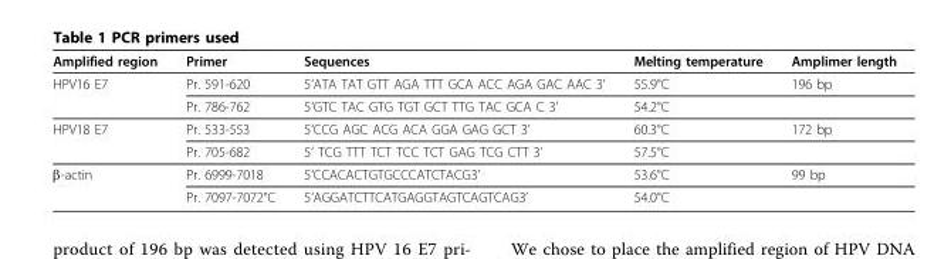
<table><thead><tr><td>Amplified region</td><td>Primer</td><td>Sequences</td><td>Melting temperature</td><td>Amplimer length</td></tr></thead><tbody><tr><td rowspan="2">HPV16 E7</td><td>Pr. 591-620</td><td>5’ATA TAT GTT AGA TTT GCA ACC AGA GAC AAC 3’</td><td>55.9°C</td><td>196 bp</td></tr><tr><td>Pr. 786-762</td><td>5’GTC TAC GTG TGT GCT TTG TAC GCA C 3’</td><td>54.2°C</td><td></td></tr><tr><td rowspan="2">HPV18 E7</td><td>Pr. 533-553</td><td>5’CCG AGC ACG ACA GGA GAG GCT 3’</td><td>60.3°C</td><td>172 bp</td></tr><tr><td>Pr. 705-682</td><td>5’ TCG TTT TCT TCC TCT GAG TCG CTT 3’</td><td>57.5°C</td><td></td></tr><tr><td rowspan="2">β-actin</td><td>Pr. 6999-7018</td><td>5’CCACACTGTGCCCATCTACG3’</td><td>53.6°C</td><td>99 bp</td></tr><tr><td>Pr. 7097-7072°C</td><td>5’AGGATCTTCATGAGGTAGTCAGTCAG3’</td><td>54.0°C</td><td></td></tr></tbody></table>